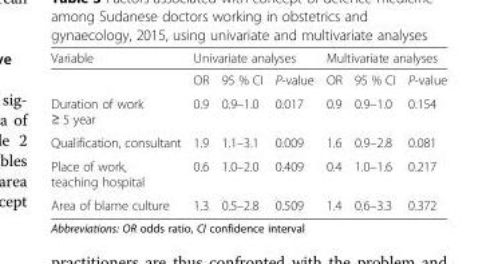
<table><thead><tr><td rowspan="2">Variable</td><td colspan="3">Univariate analyses</td><td colspan="3">Multivariate analyses</td></tr><tr><td>OR</td><td>95 % CI</td><td>P-value</td><td>OR</td><td>95 % CI</td><td>P-value</td></tr></thead><tbody><tr><td>Duration of work ≥ 5 year</td><td>0.9</td><td>0.9–1.0</td><td>0.017</td><td>0.9</td><td>0.9–1.0</td><td>0.154</td></tr><tr><td>Qualification, consultant</td><td>1.9</td><td>1.1–3.1</td><td>0.009</td><td>1.6</td><td>0.9–2.8</td><td>0.081</td></tr><tr><td>Place of work, teaching hospital</td><td>0.6</td><td>1.0–2.0</td><td>0.409</td><td>0.4</td><td>1.0–1.6</td><td>0.217</td></tr><tr><td>Area of blame culture</td><td>1.3</td><td>0.5–2.8</td><td>0.509</td><td>1.4</td><td>0.6–3.3</td><td>0.372</td></tr></tbody></table>